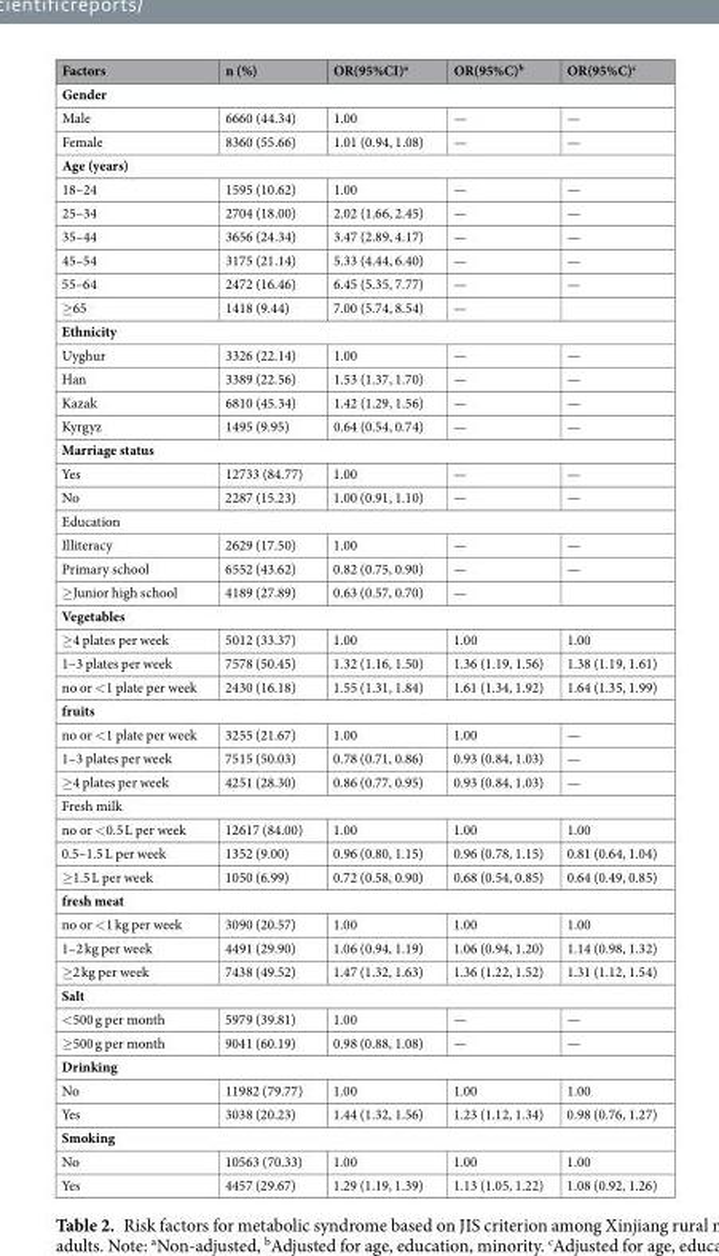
<table><thead><tr><td>Factors</td><td>n (%)</td><td>OR(95%CI)<sup>a</sup></td><td>OR(95%C)<sup>b</sup></td><td>OR(95%C)<sup>c</sup></td></tr></thead><tbody><tr><td colspan="5">Gender</td></tr><tr><td>Male</td><td>6660 (44.34)</td><td>1.00</td><td>—</td><td>—</td></tr><tr><td>Female</td><td>8360 (55.66)</td><td>1.01 (0.94, 1.08)</td><td>—</td><td>—</td></tr><tr><td colspan="5">Age (years)</td></tr><tr><td>18–24</td><td>1595 (10.62)</td><td>1.00</td><td>—</td><td>—</td></tr><tr><td>25–34</td><td>2704 (18.00)</td><td>2.02 (1.66, 2.45)</td><td>—</td><td>—</td></tr><tr><td>35–44</td><td>3656 (24.34)</td><td>3.47 (2.89, 4.17)</td><td>—</td><td>—</td></tr><tr><td>45–54</td><td>3175 (21.14)</td><td>5.33 (4.44, 6.40)</td><td>—</td><td>—</td></tr><tr><td>55–64</td><td>2472 (16.46)</td><td>6.45 (5.35, 7.77)</td><td>—</td><td>—</td></tr><tr><td>≥65</td><td>1418 (9.44)</td><td>7.00 (5.74, 8.54)</td><td>—</td><td></td></tr><tr><td colspan="5">Ethnicity</td></tr><tr><td>Uyghur</td><td>3326 (22.14)</td><td>1.00</td><td>—</td><td>—</td></tr><tr><td>Han</td><td>3389 (22.56)</td><td>1.53 (1.37, 1.70)</td><td>—</td><td>—</td></tr><tr><td>Kazak</td><td>6810 (45.34)</td><td>1.42 (1.29, 1.56)</td><td>—</td><td>—</td></tr><tr><td>Kyrgyz</td><td>1495 (9.95)</td><td>0.64 (0.54, 0.74)</td><td>—</td><td>—</td></tr><tr><td colspan="5">Marriage status</td></tr><tr><td>Yes</td><td>12733 (84.77)</td><td>1.00</td><td>—</td><td>—</td></tr><tr><td>No</td><td>2287 (15.23)</td><td>1.00 (0.91, 1.10)</td><td>—</td><td>—</td></tr><tr><td colspan="5">Education</td></tr><tr><td>Illiteracy</td><td>2629 (17.50)</td><td>1.00</td><td>—</td><td>—</td></tr><tr><td>Primary school</td><td>6552 (43.62)</td><td>0.82 (0.75, 0.90)</td><td>—</td><td>—</td></tr><tr><td>≥Junior high school</td><td>4189 (27.89)</td><td>0.63 (0.57, 0.70)</td><td>—</td><td></td></tr><tr><td colspan="5">Vegetables</td></tr><tr><td>≥4 plates per week</td><td>5012 (33.37)</td><td>1.00</td><td>1.00</td><td>1.00</td></tr><tr><td>1–3 plates per week</td><td>7578 (50.45)</td><td>1.32 (1.16, 1.50)</td><td>1.36 (1.19, 1.56)</td><td>1.38 (1.19, 1.61)</td></tr><tr><td>no or &lt;1 plate per week</td><td>2430 (16.18)</td><td>1.55 (1.31, 1.84)</td><td>1.61 (1.34, 1.92)</td><td>1.64 (1.35, 1.99)</td></tr><tr><td colspan="5">fruits</td></tr><tr><td>no or &lt;1 plate per week</td><td>3255 (21.67)</td><td>1.00</td><td>1.00</td><td>—</td></tr><tr><td>1–3 plates per week</td><td>7515 (50.03)</td><td>0.78 (0.71, 0.86)</td><td>0.93 (0.84, 1.03)</td><td>—</td></tr><tr><td>≥4 plates per week</td><td>4251 (28.30)</td><td>0.86 (0.77, 0.95)</td><td>0.93 (0.84, 1.03)</td><td>—</td></tr><tr><td colspan="5">Fresh milk</td></tr><tr><td>no or &lt;0.5 L per week</td><td>12617 (84.00)</td><td>1.00</td><td>1.00</td><td>1.00</td></tr><tr><td>0.5–1.5 L per week</td><td>1352 (9.00)</td><td>0.96 (0.80, 1.15)</td><td>0.96 (0.78, 1.15)</td><td>0.81 (0.64, 1.04)</td></tr><tr><td>≥1.5 L per week</td><td>1050 (6.99)</td><td>0.72 (0.58, 0.90)</td><td>0.68 (0.54, 0.85)</td><td>0.64 (0.49, 0.85)</td></tr><tr><td colspan="5">fresh meat</td></tr><tr><td>no or &lt;1 kg per week</td><td>3090 (20.57)</td><td>1.00</td><td>1.00</td><td>1.00</td></tr><tr><td>1–2 kg per week</td><td>4491 (29.90)</td><td>1.06 (0.94, 1.19)</td><td>1.06 (0.94, 1.20)</td><td>1.14 (0.98, 1.32)</td></tr><tr><td>≥2 kg per week</td><td>7438 (49.52)</td><td>1.47 (1.32, 1.63)</td><td>1.36 (1.22, 1.52)</td><td>1.31 (1.12, 1.54)</td></tr><tr><td colspan="5">Salt</td></tr><tr><td>&lt;500 g per month</td><td>5979 (39.81)</td><td>1.00</td><td>—</td><td>—</td></tr><tr><td>≥500 g per month</td><td>9041 (60.19)</td><td>0.98 (0.88, 1.08)</td><td>—</td><td>—</td></tr><tr><td colspan="5">Drinking</td></tr><tr><td>No</td><td>11982 (79.77)</td><td>1.00</td><td>1.00</td><td>1.00</td></tr><tr><td>Yes</td><td>3038 (20.23)</td><td>1.44 (1.32, 1.56)</td><td>1.23 (1.12, 1.34)</td><td>0.98 (0.76, 1.27)</td></tr><tr><td colspan="5">Smoking</td></tr><tr><td>No</td><td>10563 (70.33)</td><td>1.00</td><td>1.00</td><td>1.00</td></tr><tr><td>Yes</td><td>4457 (29.67)</td><td>1.29 (1.19, 1.39)</td><td>1.13 (1.05, 1.22)</td><td>1.08 (0.92, 1.26)</td></tr></tbody></table>